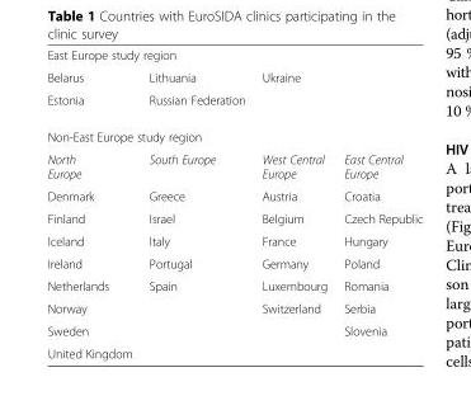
<table><tbody><tr><td colspan="4">East Europe study region</td></tr><tr><td>Belarus</td><td>Lithuania</td><td>Ukraine</td><td></td></tr><tr><td>Estonia</td><td>Russian Federation</td><td></td><td></td></tr><tr><td colspan="4">Non-East Europe study region</td></tr><tr><td>North Europe</td><td>South Europe</td><td>West Central Europe</td><td>East Central Europe</td></tr><tr><td>Denmark</td><td>Greece</td><td>Austria</td><td>Croatia</td></tr><tr><td>Finland</td><td>Israel</td><td>Belgium</td><td>Czech Republic</td></tr><tr><td>Iceland</td><td>Italy</td><td>France</td><td>Hungary</td></tr><tr><td>Ireland</td><td>Portugal</td><td>Germany</td><td>Poland</td></tr><tr><td>Netherlands</td><td>Spain</td><td>Luxembourg</td><td>Romania</td></tr><tr><td>Norway</td><td></td><td>Switzerland</td><td>Serbia</td></tr><tr><td>Sweden</td><td></td><td></td><td>Slovenia</td></tr><tr><td>United Kingdom</td><td></td><td></td><td></td></tr></tbody></table>